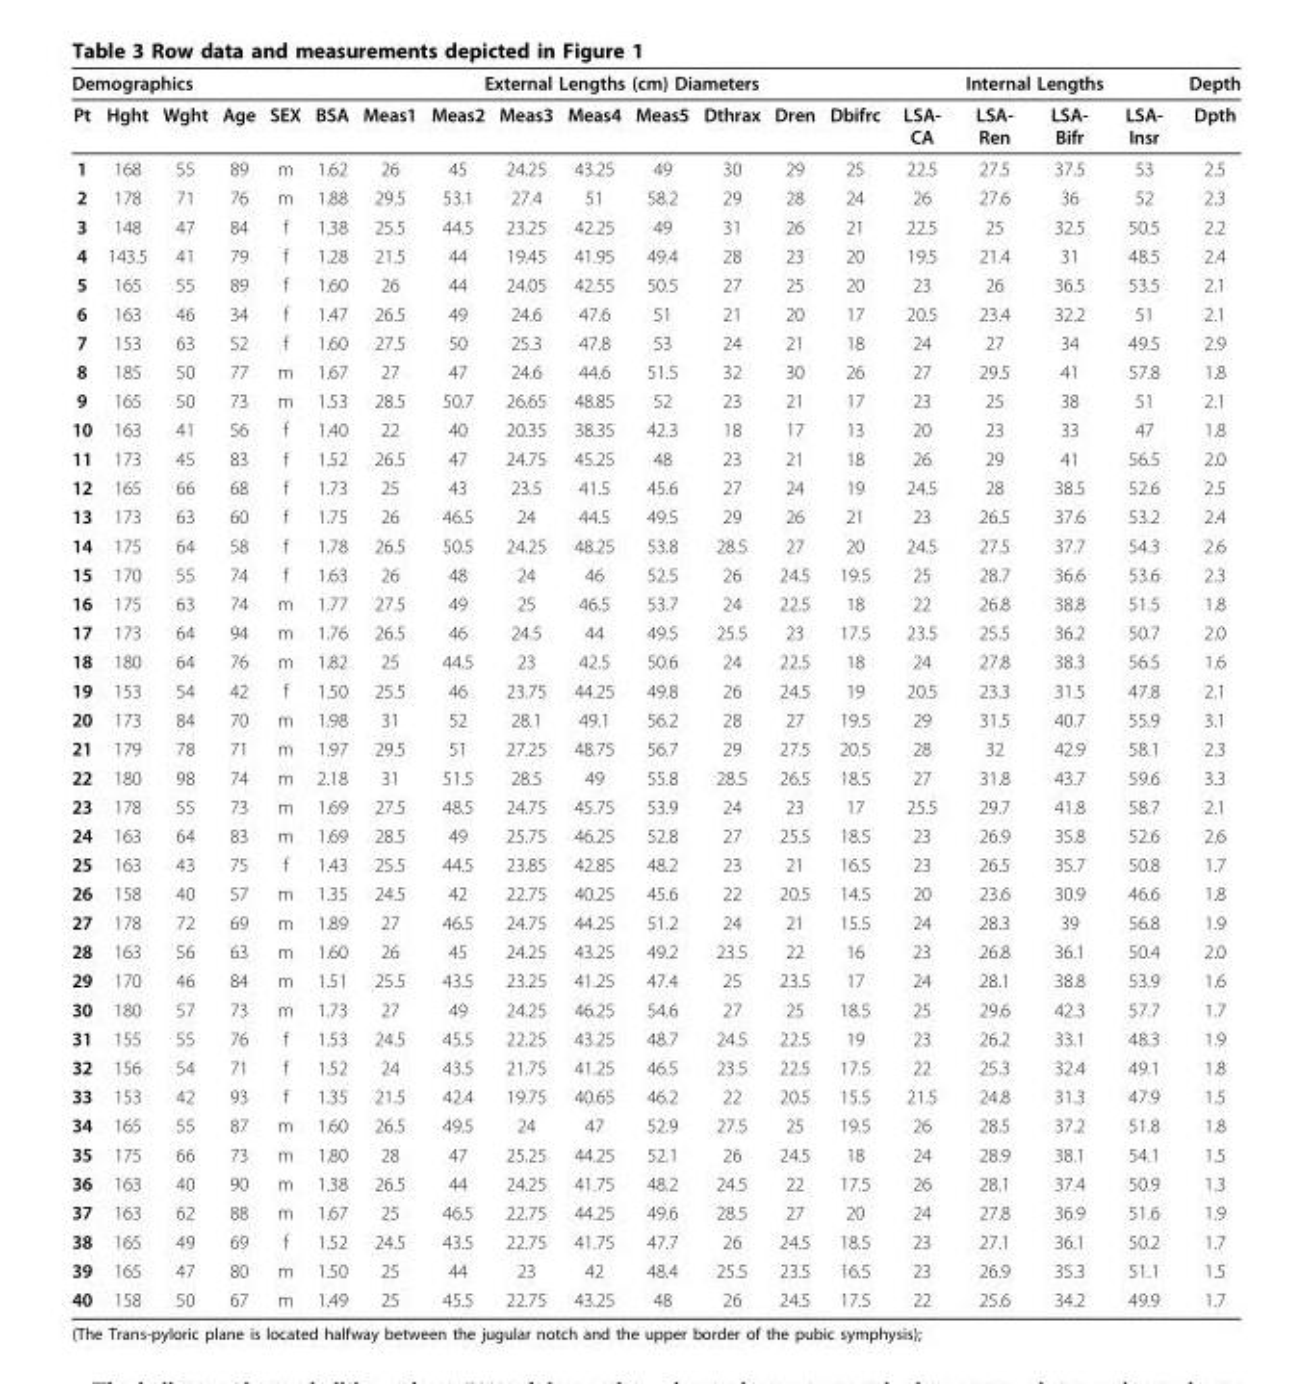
<table><thead><tr><td colspan="6">Demographics</td><td colspan="8">External Lengths (cm) Diameters</td><td colspan="4">Internal Lengths</td><td rowspan="2">Depth Dpth</td></tr><tr><td>Pt</td><td>Hght</td><td>Wght</td><td>Age</td><td>SEX</td><td>BSA</td><td>Meas1</td><td>Meas2</td><td>Meas3</td><td>Meas4</td><td>Meas5</td><td>Dthrax</td><td>Dren</td><td>Dbifrc</td><td>LSA- CA</td><td>LSA- Ren</td><td>LSA- Bifr</td><td>LSA- Insr</td></tr></thead><tbody><tr><td>1</td><td>168</td><td>55</td><td>89</td><td>m</td><td>1.62</td><td>26</td><td>45</td><td>24.25</td><td>43.25</td><td>49</td><td>30</td><td>29</td><td>25</td><td>22.5</td><td>27.5</td><td>37.5</td><td>53</td><td>2.5</td></tr><tr><td>2</td><td>178</td><td>71</td><td>76</td><td>m</td><td>1.88</td><td>29.5</td><td>53.1</td><td>27.4</td><td>51</td><td>58.2</td><td>29</td><td>28</td><td>24</td><td>26</td><td>27.6</td><td>36</td><td>52</td><td>2.3</td></tr><tr><td>3</td><td>148</td><td>47</td><td>84</td><td>f</td><td>1.38</td><td>25.5</td><td>44.5</td><td>23.25</td><td>42.25</td><td>49</td><td>31</td><td>26</td><td>21</td><td>22.5</td><td>25</td><td>32.5</td><td>50.5</td><td>2.2</td></tr><tr><td>4</td><td>143.5</td><td>41</td><td>79</td><td>f</td><td>1.28</td><td>21.5</td><td>44</td><td>19.45</td><td>41.95</td><td>49.4</td><td>28</td><td>23</td><td>20</td><td>19.5</td><td>21.4</td><td>31</td><td>48.5</td><td>2.4</td></tr><tr><td>5</td><td>165</td><td>55</td><td>89</td><td>f</td><td>1.60</td><td>26</td><td>44</td><td>24.05</td><td>42.55</td><td>50.5</td><td>27</td><td>25</td><td>20</td><td>23</td><td>26</td><td>36.5</td><td>53.5</td><td>2.1</td></tr><tr><td>6</td><td>163</td><td>46</td><td>34</td><td>f</td><td>1.47</td><td>26.5</td><td>49</td><td>24.6</td><td>47.6</td><td>51</td><td>21</td><td>20</td><td>17</td><td>20.5</td><td>23.4</td><td>32.2</td><td>51</td><td>2.1</td></tr><tr><td>7</td><td>153</td><td>63</td><td>52</td><td>f</td><td>1.60</td><td>27.5</td><td>50</td><td>25.3</td><td>47.8</td><td>53</td><td>24</td><td>21</td><td>18</td><td>24</td><td>27</td><td>34</td><td>49.5</td><td>2.9</td></tr><tr><td>8</td><td>185</td><td>50</td><td>77</td><td>m</td><td>1.67</td><td>27</td><td>47</td><td>24.6</td><td>44.6</td><td>51.5</td><td>32</td><td>30</td><td>26</td><td>27</td><td>29.5</td><td>41</td><td>57.8</td><td>1.8</td></tr><tr><td>9</td><td>165</td><td>50</td><td>73</td><td>m</td><td>1.53</td><td>28.5</td><td>50.7</td><td>26.65</td><td>48.85</td><td>52</td><td>23</td><td>21</td><td>17</td><td>23</td><td>25</td><td>38</td><td>51</td><td>2.1</td></tr><tr><td>10</td><td>163</td><td>41</td><td>56</td><td>f</td><td>1.40</td><td>22</td><td>40</td><td>20.35</td><td>38.35</td><td>42.3</td><td>18</td><td>17</td><td>13</td><td>20</td><td>23</td><td>33</td><td>47</td><td>1.8</td></tr><tr><td>11</td><td>173</td><td>45</td><td>83</td><td>f</td><td>1.52</td><td>26.5</td><td>47</td><td>24.75</td><td>45.25</td><td>48</td><td>23</td><td>21</td><td>18</td><td>26</td><td>29</td><td>41</td><td>56.5</td><td>2.0</td></tr><tr><td>12</td><td>165</td><td>66</td><td>68</td><td>f</td><td>1.73</td><td>25</td><td>43</td><td>23.5</td><td>41.5</td><td>45.6</td><td>27</td><td>24</td><td>19</td><td>24.5</td><td>28</td><td>38.5</td><td>52.6</td><td>2.5</td></tr><tr><td>13</td><td>173</td><td>63</td><td>60</td><td>f</td><td>1.75</td><td>26</td><td>46.5</td><td>24</td><td>44.5</td><td>49.5</td><td>29</td><td>26</td><td>21</td><td>23</td><td>26.5</td><td>37.6</td><td>53.2</td><td>2.4</td></tr><tr><td>14</td><td>175</td><td>64</td><td>58</td><td>f</td><td>1.78</td><td>26.5</td><td>50.5</td><td>24.25</td><td>48.25</td><td>53.8</td><td>28.5</td><td>27</td><td>20</td><td>24.5</td><td>27.5</td><td>37.7</td><td>54.3</td><td>2.6</td></tr><tr><td>15</td><td>170</td><td>55</td><td>74</td><td>f</td><td>1.63</td><td>26</td><td>48</td><td>24</td><td>46</td><td>52.5</td><td>26</td><td>24.5</td><td>19.5</td><td>25</td><td>28.7</td><td>36.6</td><td>53.6</td><td>2.3</td></tr><tr><td>16</td><td>175</td><td>63</td><td>74</td><td>m</td><td>1.77</td><td>27.5</td><td>49</td><td>25</td><td>46.5</td><td>53.7</td><td>24</td><td>22.5</td><td>18</td><td>22</td><td>26.8</td><td>38.8</td><td>51.5</td><td>1.8</td></tr><tr><td>17</td><td>173</td><td>64</td><td>94</td><td>m</td><td>1.76</td><td>26.5</td><td>46</td><td>24.5</td><td>44</td><td>49.5</td><td>25.5</td><td>23</td><td>17.5</td><td>23.5</td><td>25.5</td><td>36.2</td><td>50.7</td><td>2.0</td></tr><tr><td>18</td><td>180</td><td>64</td><td>76</td><td>m</td><td>1.82</td><td>25</td><td>44.5</td><td>23</td><td>42.5</td><td>50.6</td><td>24</td><td>22.5</td><td>18</td><td>24</td><td>27.8</td><td>38.3</td><td>56.5</td><td>1.6</td></tr><tr><td>19</td><td>153</td><td>54</td><td>42</td><td>f</td><td>1.50</td><td>25.5</td><td>46</td><td>23.75</td><td>44.25</td><td>49.8</td><td>26</td><td>24.5</td><td>19</td><td>20.5</td><td>23.3</td><td>31.5</td><td>47.8</td><td>2.1</td></tr><tr><td>20</td><td>173</td><td>84</td><td>70</td><td>m</td><td>1.98</td><td>31</td><td>52</td><td>28.1</td><td>49.1</td><td>56.2</td><td>28</td><td>27</td><td>19.5</td><td>29</td><td>31.5</td><td>40.7</td><td>55.9</td><td>3.1</td></tr><tr><td>21</td><td>179</td><td>78</td><td>71</td><td>m</td><td>1.97</td><td>29.5</td><td>51</td><td>27.25</td><td>48.75</td><td>56.7</td><td>29</td><td>27.5</td><td>20.5</td><td>28</td><td>32</td><td>42.9</td><td>58.1</td><td>2.3</td></tr><tr><td>22</td><td>180</td><td>98</td><td>74</td><td>m</td><td>2.18</td><td>31</td><td>51.5</td><td>28.5</td><td>49</td><td>55.8</td><td>28.5</td><td>26.5</td><td>18.5</td><td>27</td><td>31.8</td><td>43.7</td><td>59.6</td><td>3.3</td></tr><tr><td>23</td><td>178</td><td>55</td><td>73</td><td>m</td><td>1.69</td><td>27.5</td><td>48.5</td><td>24.75</td><td>45.75</td><td>53.9</td><td>24</td><td>23</td><td>17</td><td>25.5</td><td>29.7</td><td>41.8</td><td>58.7</td><td>2.1</td></tr><tr><td>24</td><td>163</td><td>64</td><td>83</td><td>m</td><td>1.69</td><td>28.5</td><td>49</td><td>25.75</td><td>46.25</td><td>52.8</td><td>27</td><td>25.5</td><td>18.5</td><td>23</td><td>26.9</td><td>35.8</td><td>52.6</td><td>2.6</td></tr><tr><td>25</td><td>163</td><td>43</td><td>75</td><td>f</td><td>1.43</td><td>25.5</td><td>44.5</td><td>23.85</td><td>42.85</td><td>48.2</td><td>23</td><td>21</td><td>16.5</td><td>23</td><td>26.5</td><td>35.7</td><td>50.8</td><td>1.7</td></tr><tr><td>26</td><td>158</td><td>40</td><td>57</td><td>m</td><td>1.35</td><td>24.5</td><td>42</td><td>22.75</td><td>40.25</td><td>45.6</td><td>22</td><td>20.5</td><td>14.5</td><td>20</td><td>23.6</td><td>30.9</td><td>46.6</td><td>1.8</td></tr><tr><td>27</td><td>178</td><td>72</td><td>69</td><td>m</td><td>1.89</td><td>27</td><td>46.5</td><td>24.75</td><td>44.25</td><td>51.2</td><td>24</td><td>21</td><td>15.5</td><td>24</td><td>28.3</td><td>39</td><td>56.8</td><td>1.9</td></tr><tr><td>28</td><td>163</td><td>56</td><td>63</td><td>m</td><td>1.60</td><td>26</td><td>45</td><td>24.25</td><td>43.25</td><td>49.2</td><td>23.5</td><td>22</td><td>16</td><td>23</td><td>26.8</td><td>36.1</td><td>50.4</td><td>2.0</td></tr><tr><td>29</td><td>170</td><td>46</td><td>84</td><td>m</td><td>1.51</td><td>25.5</td><td>43.5</td><td>23.25</td><td>41.25</td><td>47.4</td><td>25</td><td>23.5</td><td>17</td><td>24</td><td>28.1</td><td>38.8</td><td>53.9</td><td>1.6</td></tr><tr><td>30</td><td>180</td><td>57</td><td>73</td><td>m</td><td>1.73</td><td>27</td><td>49</td><td>24.25</td><td>46.25</td><td>54.6</td><td>27</td><td>25</td><td>18.5</td><td>25</td><td>29.6</td><td>42.3</td><td>57.7</td><td>1.7</td></tr><tr><td>31</td><td>155</td><td>55</td><td>76</td><td>f</td><td>1.53</td><td>24.5</td><td>45.5</td><td>22.25</td><td>43.25</td><td>48.7</td><td>24.5</td><td>22.5</td><td>19</td><td>23</td><td>26.2</td><td>33.1</td><td>48.3</td><td>1.9</td></tr><tr><td>32</td><td>156</td><td>54</td><td>71</td><td>f</td><td>1.52</td><td>24</td><td>43.5</td><td>21.75</td><td>41.25</td><td>46.5</td><td>23.5</td><td>22.5</td><td>17.5</td><td>22</td><td>25.3</td><td>32.4</td><td>49.1</td><td>1.8</td></tr><tr><td>33</td><td>153</td><td>42</td><td>93</td><td>f</td><td>1.35</td><td>21.5</td><td>42.4</td><td>19.75</td><td>40.65</td><td>46.2</td><td>22</td><td>20.5</td><td>15.5</td><td>21.5</td><td>24.8</td><td>31.3</td><td>47.9</td><td>1.5</td></tr><tr><td>34</td><td>165</td><td>55</td><td>87</td><td>m</td><td>1.60</td><td>26.5</td><td>49.5</td><td>24</td><td>47</td><td>52.9</td><td>27.5</td><td>25</td><td>19.5</td><td>26</td><td>28.5</td><td>37.2</td><td>51.8</td><td>1.8</td></tr><tr><td>35</td><td>175</td><td>66</td><td>73</td><td>m</td><td>1.80</td><td>28</td><td>47</td><td>25.25</td><td>44.25</td><td>52.1</td><td>26</td><td>24.5</td><td>18</td><td>24</td><td>28.9</td><td>38.1</td><td>54.1</td><td>1.5</td></tr><tr><td>36</td><td>163</td><td>40</td><td>90</td><td>m</td><td>1.38</td><td>26.5</td><td>44</td><td>24.25</td><td>41.75</td><td>48.2</td><td>24.5</td><td>22</td><td>17.5</td><td>26</td><td>28.1</td><td>37.4</td><td>50.9</td><td>1.3</td></tr><tr><td>37</td><td>163</td><td>62</td><td>88</td><td>m</td><td>1.67</td><td>25</td><td>46.5</td><td>22.75</td><td>44.25</td><td>49.6</td><td>28.5</td><td>27</td><td>20</td><td>24</td><td>27.8</td><td>36.9</td><td>51.6</td><td>1.9</td></tr><tr><td>38</td><td>165</td><td>49</td><td>69</td><td>f</td><td>1.52</td><td>24.5</td><td>43.5</td><td>22.75</td><td>41.75</td><td>47.7</td><td>26</td><td>24.5</td><td>18.5</td><td>23</td><td>27.1</td><td>36.1</td><td>50.2</td><td>1.7</td></tr><tr><td>39</td><td>165</td><td>47</td><td>80</td><td>m</td><td>1.50</td><td>25</td><td>44</td><td>23</td><td>42</td><td>48.4</td><td>25.5</td><td>23.5</td><td>16.5</td><td>23</td><td>26.9</td><td>35.3</td><td>51.1</td><td>1.5</td></tr><tr><td>40</td><td>158</td><td>50</td><td>67</td><td>m</td><td>1.49</td><td>25</td><td>45.5</td><td>22.75</td><td>43.25</td><td>48</td><td>26</td><td>24.5</td><td>17.5</td><td>22</td><td>25.6</td><td>34.2</td><td>49.9</td><td>1.7</td></tr></tbody></table>